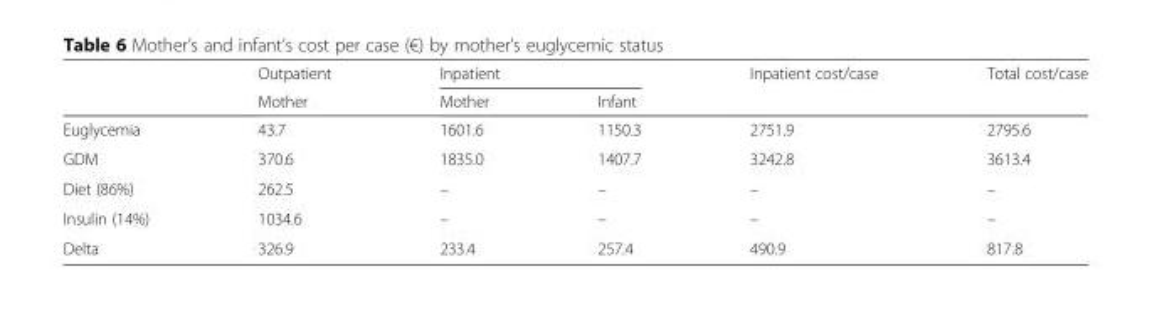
<table><thead><tr><td rowspan="2"></td><td rowspan="2">Outpatient Mother</td><td colspan="2">Inpatient</td><td rowspan="2">Inpatient cost/case</td><td rowspan="2">Total cost/case</td></tr><tr><td>Mother</td><td>Infant</td></tr></thead><tbody><tr><td>Euglycemia</td><td>43.7</td><td>1601.6</td><td>1150.3</td><td>2751.9</td><td>2795.6</td></tr><tr><td>GDM</td><td>370.6</td><td>1835.0</td><td>1407.7</td><td>3242.8</td><td>3613.4</td></tr><tr><td>Diet (86%)</td><td>262.5</td><td>–</td><td>–</td><td>–</td><td>–</td></tr><tr><td>Insulin (14%)</td><td>1034.6</td><td>–</td><td>–</td><td>–</td><td>–</td></tr><tr><td>Delta</td><td>326.9</td><td>233.4</td><td>257.4</td><td>490.9</td><td>817.8</td></tr></tbody></table>